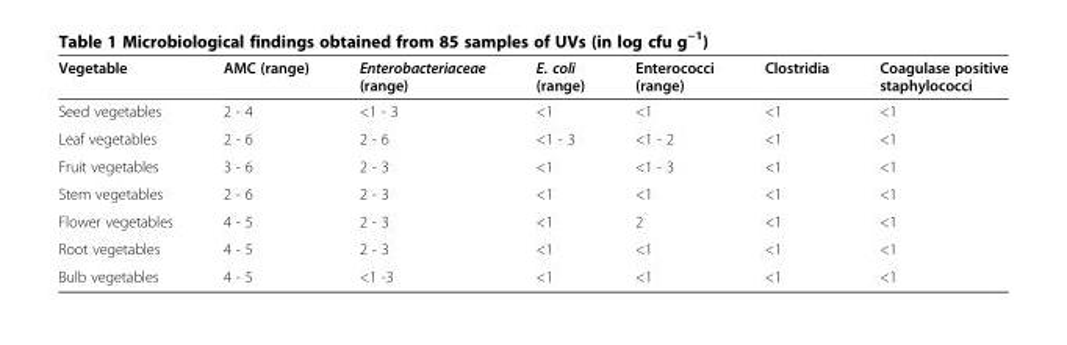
<table><thead><tr><td>Vegetable</td><td>AMC (range)</td><td>Enterobacteriaceae (range)</td><td>E. coli (range)</td><td>Enterococci (range)</td><td>Clostridia</td><td>Coagulase positive staphylococci</td></tr></thead><tbody><tr><td>Seed vegetables</td><td>2 - 4</td><td>&lt;1 - 3</td><td>&lt;1</td><td>&lt;1</td><td>&lt;1</td><td>&lt;1</td></tr><tr><td>Leaf vegetables</td><td>2 - 6</td><td>2 - 6</td><td>&lt;1 - 3</td><td>&lt;1 - 2</td><td>&lt;1</td><td>&lt;1</td></tr><tr><td>Fruit vegetables</td><td>3 - 6</td><td>2 - 3</td><td>&lt;1</td><td>&lt;1 - 3</td><td>&lt;1</td><td>&lt;1</td></tr><tr><td>Stem vegetables</td><td>2 - 6</td><td>2 - 3</td><td>&lt;1</td><td>&lt;1</td><td>&lt;1</td><td>&lt;1</td></tr><tr><td>Flower vegetables</td><td>4 - 5</td><td>2 - 3</td><td>&lt;1</td><td>2</td><td>&lt;1</td><td>&lt;1</td></tr><tr><td>Root vegetables</td><td>4 - 5</td><td>2 - 3</td><td>&lt;1</td><td>&lt;1</td><td>&lt;1</td><td>&lt;1</td></tr><tr><td>Bulb vegetables</td><td>4 - 5</td><td>&lt;1 -3</td><td>&lt;1</td><td>&lt;1</td><td>&lt;1</td><td>&lt;1</td></tr></tbody></table>